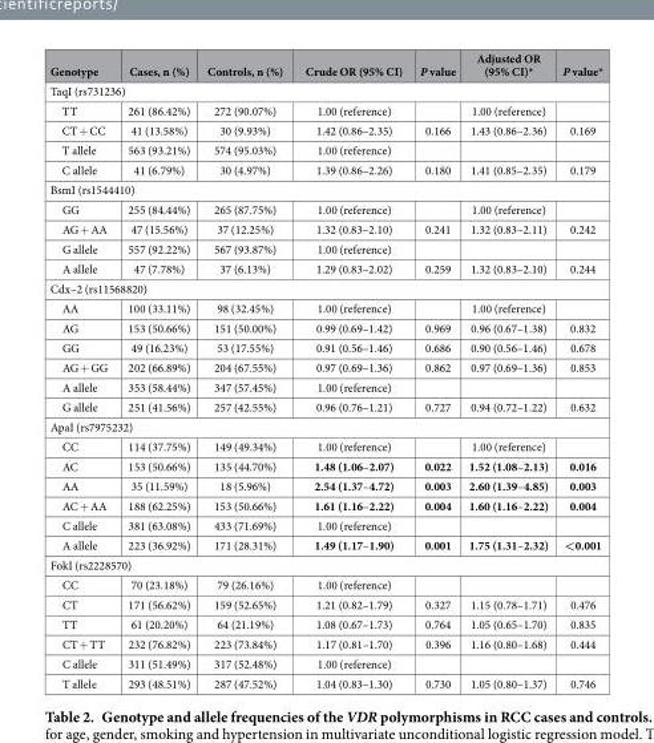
<table><thead><tr><td>Genotype</td><td>Cases, n (%)</td><td>Controls, n (%)</td><td>Crude OR (95% CI)</td><td>P value</td><td>Adjusted OR (95% CI)*</td><td>P value*</td></tr></thead><tbody><tr><td colspan="7">TaqI (rs731236)</td></tr><tr><td>TT</td><td>261 (86.42%)</td><td>272 (90.07%)</td><td>1.00 (reference)</td><td></td><td>1.00 (reference)</td><td></td></tr><tr><td>CT + CC</td><td>41 (13.58%)</td><td>30 (9.93%)</td><td>1.42 (0.86–2.35)</td><td>0.166</td><td>1.43 (0.86–2.36)</td><td>0.169</td></tr><tr><td>T allele</td><td>563 (93.21%)</td><td>574 (95.03%)</td><td>1.00 (reference)</td><td></td><td></td><td></td></tr><tr><td>C allele</td><td>41 (6.79%)</td><td>30 (4.97%)</td><td>1.39 (0.86–2.26)</td><td>0.180</td><td>1.41 (0.85–2.35)</td><td>0.179</td></tr><tr><td colspan="7">BsmI (rs1544410)</td></tr><tr><td>GG</td><td>255 (84.44%)</td><td>265 (87.75%)</td><td>1.00 (reference)</td><td></td><td>1.00 (reference)</td><td></td></tr><tr><td>AG + AA</td><td>47 (15.56%)</td><td>37 (12.25%)</td><td>1.32 (0.83–2.10)</td><td>0.241</td><td>1.32 (0.83–2.11)</td><td>0.242</td></tr><tr><td>G allele</td><td>557 (92.22%)</td><td>567 (93.87%)</td><td>1.00 (reference)</td><td></td><td></td><td></td></tr><tr><td>A allele</td><td>47 (7.78%)</td><td>37 (6.13%)</td><td>1.29 (0.83–2.02)</td><td>0.259</td><td>1.32 (0.83–2.10)</td><td>0.244</td></tr><tr><td colspan="7">Cdx–2 (rs11568820)</td></tr><tr><td>AA</td><td>100 (33.11%)</td><td>98 (32.45%)</td><td>1.00 (reference)</td><td></td><td>1.00 (reference)</td><td></td></tr><tr><td>AG</td><td>153 (50.66%)</td><td>151 (50.00%)</td><td>0.99 (0.69–1.42)</td><td>0.969</td><td>0.96 (0.67–1.38)</td><td>0.832</td></tr><tr><td>GG</td><td>49 (16.23%)</td><td>53 (17.55%)</td><td>0.91 (0.56–1.46)</td><td>0.686</td><td>0.90 (0.56–1.46)</td><td>0.678</td></tr><tr><td>AG + GG</td><td>202 (66.89%)</td><td>204 (67.55%)</td><td>0.97 (0.69–1.36)</td><td>0.862</td><td>0.97 (0.69–1.36)</td><td>0.853</td></tr><tr><td>A allele</td><td>353 (58.44%)</td><td>347 (57.45%)</td><td>1.00 (reference)</td><td></td><td></td><td></td></tr><tr><td>G allele</td><td>251 (41.56%)</td><td>257 (42.55%)</td><td>0.96 (0.76–1.21)</td><td>0.727</td><td>0.94 (0.72–1.22)</td><td>0.632</td></tr><tr><td colspan="7">ApaI (rs7975232)</td></tr><tr><td>CC</td><td>114 (37.75%)</td><td>149 (49.34%)</td><td>1.00 (reference)</td><td></td><td>1.00 (reference)</td><td></td></tr><tr><td>AC</td><td>153 (50.66%)</td><td>135 (44.70%)</td><td>1.48 (1.06–2.07)</td><td>0.022</td><td>1.52 (1.08–2.13)</td><td>0.016</td></tr><tr><td>AA</td><td>35 (11.59%)</td><td>18 (5.96%)</td><td>2.54 (1.37–4.72)</td><td>0.003</td><td>2.60 (1.39–4.85)</td><td>0.003</td></tr><tr><td>AC + AA</td><td>188 (62.25%)</td><td>153 (50.66%)</td><td>1.61 (1.16–2.22)</td><td>0.004</td><td>1.60 (1.16–2.22)</td><td>0.004</td></tr><tr><td>C allele</td><td>381 (63.08%)</td><td>433 (71.69%)</td><td>1.00 (reference)</td><td></td><td></td><td></td></tr><tr><td>A allele</td><td>223 (36.92%)</td><td>171 (28.31%)</td><td>1.49 (1.17–1.90)</td><td>0.001</td><td>1.75 (1.31–2.32)</td><td>&lt;0.001</td></tr><tr><td colspan="7">FokI (rs2228570)</td></tr><tr><td>CC</td><td>70 (23.18%)</td><td>79 (26.16%)</td><td>1.00 (reference)</td><td></td><td></td><td></td></tr><tr><td>CT</td><td>171 (56.62%)</td><td>159 (52.65%)</td><td>1.21 (0.82–1.79)</td><td>0.327</td><td>1.15 (0.78–1.71)</td><td>0.476</td></tr><tr><td>TT</td><td>61 (20.20%)</td><td>64 (21.19%)</td><td>1.08 (0.67–1.73)</td><td>0.764</td><td>1.05 (0.65–1.70)</td><td>0.835</td></tr><tr><td>CT + TT</td><td>232 (76.82%)</td><td>223 (73.84%)</td><td>1.17 (0.81–1.70)</td><td>0.396</td><td>1.16 (0.80–1.68)</td><td>0.444</td></tr><tr><td>C allele</td><td>311 (51.49%)</td><td>317 (52.48%)</td><td>1.00 (reference)</td><td></td><td></td><td></td></tr><tr><td>T allele</td><td>293 (48.51%)</td><td>287 (47.52%)</td><td>1.04 (0.83–1.30)</td><td>0.730</td><td>1.05 (0.80–1.37)</td><td>0.746</td></tr></tbody></table>